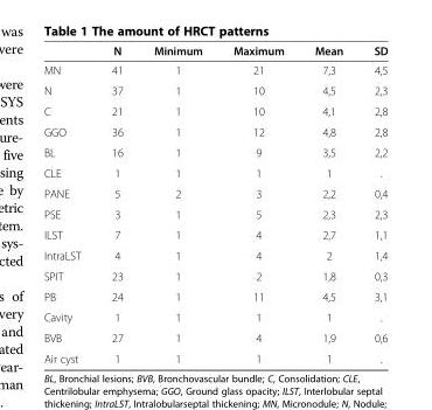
<table><thead><tr><td></td><td>N</td><td>Minimum</td><td>Maximum</td><td>Mean</td><td>SD</td></tr></thead><tbody><tr><td>MN</td><td>41</td><td>1</td><td>21</td><td>7,3</td><td>4,5</td></tr><tr><td>N</td><td>37</td><td>1</td><td>10</td><td>4,5</td><td>2,3</td></tr><tr><td>C</td><td>21</td><td>1</td><td>10</td><td>4,1</td><td>2,8</td></tr><tr><td>GGO</td><td>36</td><td>1</td><td>12</td><td>4,8</td><td>2,8</td></tr><tr><td>BL</td><td>16</td><td>1</td><td>9</td><td>3,5</td><td>2,2</td></tr><tr><td>CLE</td><td>1</td><td>1</td><td>1</td><td>1</td><td>.</td></tr><tr><td>PANE</td><td>5</td><td>2</td><td>3</td><td>2,2</td><td>0,4</td></tr><tr><td>PSE</td><td>3</td><td>1</td><td>5</td><td>2,3</td><td>2,3</td></tr><tr><td>ILST</td><td>7</td><td>1</td><td>4</td><td>2,7</td><td>1,1</td></tr><tr><td>IntraLST</td><td>4</td><td>1</td><td>4</td><td>2</td><td>1,4</td></tr><tr><td>SPIT</td><td>23</td><td>1</td><td>2</td><td>1,8</td><td>0,3</td></tr><tr><td>PB</td><td>24</td><td>1</td><td>11</td><td>4,5</td><td>3,1</td></tr><tr><td>Cavity</td><td>1</td><td>1</td><td>1</td><td>1</td><td>.</td></tr><tr><td>BVB</td><td>27</td><td>1</td><td>4</td><td>1,9</td><td>0,6</td></tr><tr><td>Air cyst</td><td>1</td><td>1</td><td>1</td><td>1</td><td>.</td></tr></tbody></table>